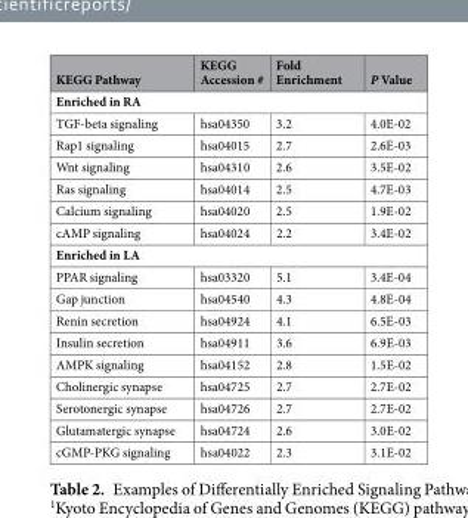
<table><thead><tr><td>KEGG Pathway</td><td>KEGG Accession #</td><td>Fold Enrichment</td><td>P Value</td></tr></thead><tbody><tr><td colspan="4">Enriched in RA</td></tr><tr><td>TGF-beta signaling</td><td>hsa04350</td><td>3.2</td><td>4.0E-02</td></tr><tr><td>Rap1 signaling</td><td>hsa04015</td><td>2.7</td><td>2.6E-03</td></tr><tr><td>Wnt signaling</td><td>hsa04310</td><td>2.6</td><td>3.5E-02</td></tr><tr><td>Ras signaling</td><td>hsa04014</td><td>2.5</td><td>4.7E-03</td></tr><tr><td>Calcium signaling</td><td>hsa04020</td><td>2.5</td><td>1.9E-02</td></tr><tr><td>cAMP signaling</td><td>hsa04024</td><td>2.2</td><td>3.4E-02</td></tr><tr><td colspan="4">Enriched in LA</td></tr><tr><td>PPAR signaling</td><td>hsa03320</td><td>5.1</td><td>3.4E-04</td></tr><tr><td>Gap junction</td><td>hsa04540</td><td>4.3</td><td>4.8E-04</td></tr><tr><td>Renin secretion</td><td>hsa04924</td><td>4.1</td><td>6.5E-03</td></tr><tr><td>Insulin secretion</td><td>hsa04911</td><td>3.6</td><td>6.9E-03</td></tr><tr><td>AMPK signaling</td><td>hsa04152</td><td>2.8</td><td>1.5E-02</td></tr><tr><td>Cholinergic synapse</td><td>hsa04725</td><td>2.7</td><td>2.7E-02</td></tr><tr><td>Serotonergic synapse</td><td>hsa04726</td><td>2.7</td><td>2.7E-02</td></tr><tr><td>Glutamatergic synapse</td><td>hsa04724</td><td>2.6</td><td>3.0E-02</td></tr><tr><td>cGMP-PKG signaling</td><td>hsa04022</td><td>2.3</td><td>3.1E-02</td></tr></tbody></table>